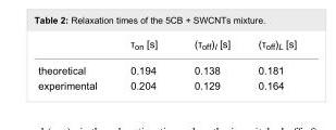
<table><thead><tr><td></td><td>τ<sub>on</sub> [s]</td><td>(τ<sub>off</sub>)<sub>I</sub> [s]</td><td>(τ<sub>off</sub>)<sub>L</sub> [s]</td></tr></thead><tbody><tr><td>theoretical</td><td>0.194</td><td>0.138</td><td>0.181</td></tr><tr><td>experimental</td><td>0.204</td><td>0.129</td><td>0.164</td></tr></tbody></table>